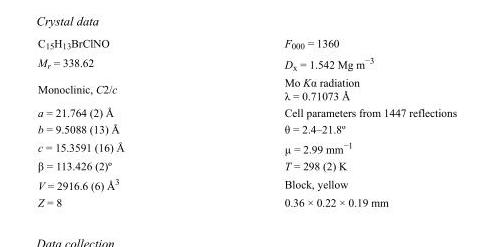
<table><tbody><tr><td>C<sub>15</sub>H<sub>13</sub>BrClNO</td><td>F000 = 1360</td></tr><tr><td>M<sub>r</sub> = 338.62</td><td>D<sub>x</sub> = 1.542 Mg m<sup>−3</sup></td></tr><tr><td>Monoclinic, C2/c</td><td>Mo Kα radiation λ = 0.71073 Å</td></tr><tr><td>a = 21.764 (2) Å</td><td>Cell parameters from 1447 reflections</td></tr><tr><td>b = 9.5088 (13) Å</td><td>θ = 2.4–21.8º</td></tr><tr><td>c = 15.3591 (16) Å</td><td>µ = 2.99 mm<sup>−1</sup></td></tr><tr><td>β = 113.426 (2)º</td><td>T = 298 (2) K</td></tr><tr><td>V = 2916.6 (6) Å<sup>3</sup></td><td>Block, yellow</td></tr><tr><td>Z = 8</td><td>0.36 × 0.22 × 0.19 mm</td></tr></tbody></table>